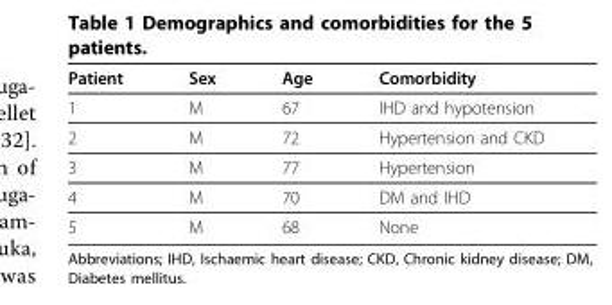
<table><thead><tr><td>Patient</td><td>Sex</td><td>Age</td><td>Comorbidity</td></tr></thead><tbody><tr><td>1</td><td>M</td><td>67</td><td>IHD and hypotension</td></tr><tr><td>2</td><td>M</td><td>72</td><td>Hypertension and CKD</td></tr><tr><td>3</td><td>M</td><td>77</td><td>Hypertension</td></tr><tr><td>4</td><td>M</td><td>70</td><td>DM and IHD</td></tr><tr><td>5</td><td>M</td><td>68</td><td>None</td></tr></tbody></table>